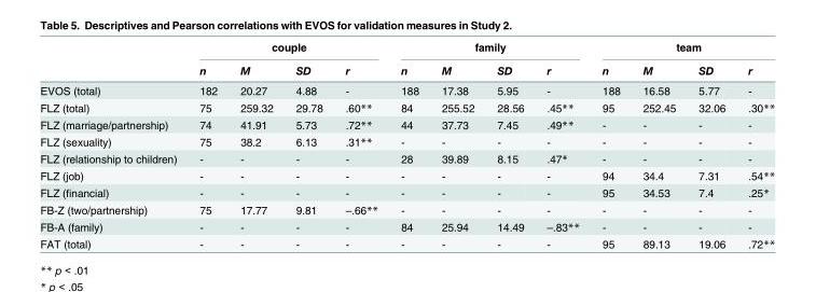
<table><thead><tr><td rowspan="2"></td><td colspan="4">couple</td><td colspan="4">family</td><td colspan="4">team</td></tr><tr><td>n</td><td>M</td><td>SD</td><td>r</td><td>n</td><td>M</td><td>SD</td><td>r</td><td>n</td><td>M</td><td>SD</td><td>r</td></tr></thead><tbody><tr><td>EVOS (total)</td><td>182</td><td>20.27</td><td>4.88</td><td>-</td><td>188</td><td>17.38</td><td>5.95</td><td>-</td><td>188</td><td>16.58</td><td>5.77</td><td>-</td></tr><tr><td>FLZ (total)</td><td>75</td><td>259.32</td><td>29.78</td><td>.60**</td><td>84</td><td>255.52</td><td>28.56</td><td>.45**</td><td>95</td><td>252.45</td><td>32.06</td><td>.30**</td></tr><tr><td>FLZ (marriage/partnership)</td><td>74</td><td>41.91</td><td>5.73</td><td>.72**</td><td>44</td><td>37.73</td><td>7.45</td><td>.49**</td><td>-</td><td>-</td><td>-</td><td>-</td></tr><tr><td>FLZ (sexuality)</td><td>75</td><td>38.2</td><td>6.13</td><td>.31**</td><td>-</td><td>-</td><td>-</td><td>-</td><td>-</td><td>-</td><td>-</td><td>-</td></tr><tr><td>FLZ (relationship to children)</td><td>-</td><td>-</td><td>-</td><td>-</td><td>28</td><td>39.89</td><td>8.15</td><td>.47*</td><td>-</td><td>-</td><td>-</td><td>-</td></tr><tr><td>FLZ (job)</td><td>-</td><td>-</td><td>-</td><td>-</td><td>-</td><td>-</td><td>-</td><td>-</td><td>94</td><td>34.4</td><td>7.31</td><td>.54**</td></tr><tr><td>FLZ (financial)</td><td>-</td><td>-</td><td>-</td><td>-</td><td>-</td><td>-</td><td>-</td><td>-</td><td>95</td><td>34.53</td><td>7.4</td><td>.25*</td></tr><tr><td>FB-Z (two/partnership)</td><td>75</td><td>17.77</td><td>9.81</td><td>–.66**</td><td>-</td><td>-</td><td>-</td><td>-</td><td>-</td><td>-</td><td>-</td><td>-</td></tr><tr><td>FB-A (family)</td><td>-</td><td>-</td><td>-</td><td>-</td><td>84</td><td>25.94</td><td>14.49</td><td>–.83**</td><td>-</td><td>-</td><td>-</td><td>-</td></tr><tr><td>FAT (total)</td><td>-</td><td>-</td><td>-</td><td>-</td><td>-</td><td>-</td><td>-</td><td>-</td><td>95</td><td>89.13</td><td>19.06</td><td>.72**</td></tr></tbody></table>